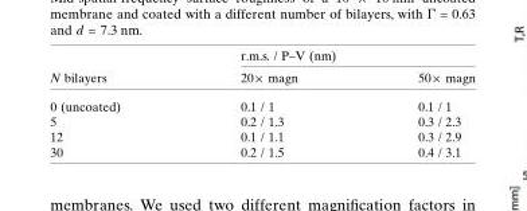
<table><thead><tr><td rowspan="2">N bilayers</td><td colspan="2">r.m.s. / P–V (nm)</td></tr><tr><td>20× magn</td><td>50× magn</td></tr></thead><tbody><tr><td>0 (uncoated)</td><td>0.1 / 1</td><td>0.1 / 1</td></tr><tr><td>5</td><td>0.2 / 1.3</td><td>0.3 / 2.3</td></tr><tr><td>12</td><td>0.1 / 1.1</td><td>0.3 / 2.9</td></tr><tr><td>30</td><td>0.2 / 1.5</td><td>0.4 / 3.1</td></tr></tbody></table>